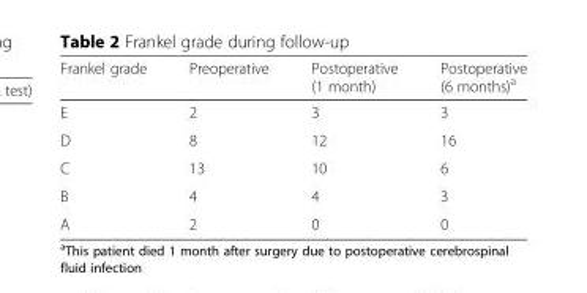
<table><thead><tr><td>Frankel grade</td><td>Preoperative</td><td>Postoperative (1 month)</td><td>Postoperative (6 months)<sup>a</sup></td></tr></thead><tbody><tr><td>E</td><td>2</td><td>3</td><td>3</td></tr><tr><td>D</td><td>8</td><td>12</td><td>16</td></tr><tr><td>C</td><td>13</td><td>10</td><td>6</td></tr><tr><td>B</td><td>4</td><td>4</td><td>3</td></tr><tr><td>A</td><td>2</td><td>0</td><td>0</td></tr></tbody></table>